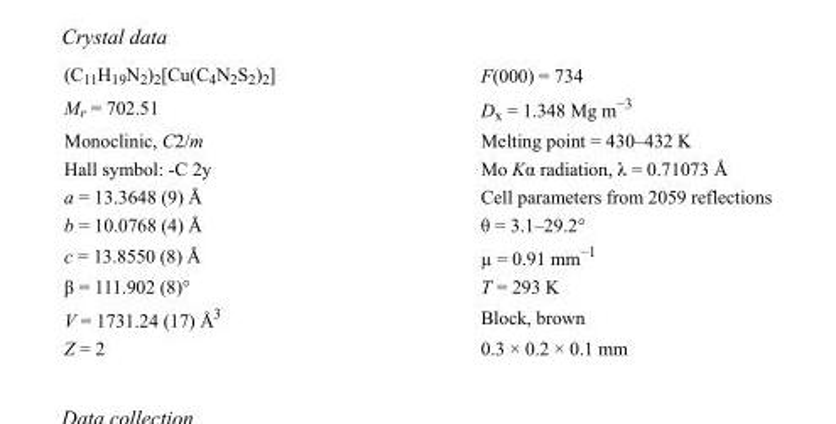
<table><tbody><tr><td>(C<sub>11</sub>H<sub>19</sub>N<sub>2</sub>)<sub>2</sub>[Cu(C<sub>4</sub>N<sub>2</sub>S<sub>2</sub>)<sub>2</sub>]</td><td>F(000) = 734</td></tr><tr><td>M<sub>r</sub> = 702.51</td><td>D<sub>x</sub> = 1.348 Mg m<sup>−3</sup></td></tr><tr><td>Monoclinic, C2/m</td><td>Melting point = 430–432 K</td></tr><tr><td>Hall symbol: -C 2y</td><td>Mo Kα radiation, λ = 0.71073 Å</td></tr><tr><td>a = 13.3648 (9) Å</td><td>Cell parameters from 2059 reflections</td></tr><tr><td>b = 10.0768 (4) Å</td><td>θ = 3.1–29.2°</td></tr><tr><td>c = 13.8550 (8) Å</td><td>µ = 0.91 mm<sup>−1</sup></td></tr><tr><td>β = 111.902 (8)°</td><td>T = 293 K</td></tr><tr><td>V = 1731.24 (17) Å<sup>3</sup></td><td>Block, brown</td></tr><tr><td>Z = 2</td><td>0.3 × 0.2 × 0.1 mm</td></tr></tbody></table>